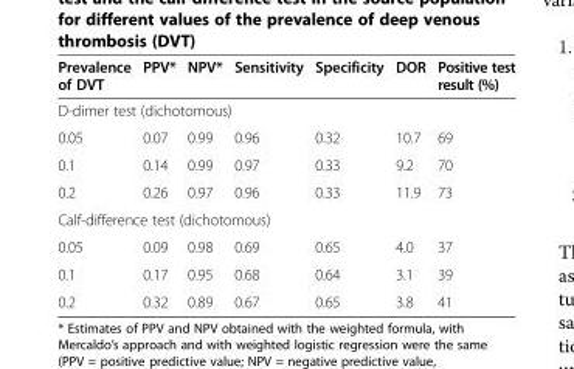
<table><thead><tr><td>Prevalence of DVT</td><td>PPV*</td><td>NPV*</td><td>Sensitivity</td><td>Specificity</td><td>DOR</td><td>Positive test result (%)</td></tr></thead><tbody><tr><td colspan="7">D-dimer test (dichotomous)</td></tr><tr><td>0.05</td><td>0.07</td><td>0.99</td><td>0.96</td><td>0.32</td><td>10.7</td><td>69</td></tr><tr><td>0.1</td><td>0.14</td><td>0.99</td><td>0.97</td><td>0.33</td><td>9.2</td><td>70</td></tr><tr><td>0.2</td><td>0.26</td><td>0.97</td><td>0.96</td><td>0.33</td><td>11.9</td><td>73</td></tr><tr><td colspan="7">Calf-difference test (dichotomous)</td></tr><tr><td>0.05</td><td>0.09</td><td>0.98</td><td>0.69</td><td>0.65</td><td>4.0</td><td>37</td></tr><tr><td>0.1</td><td>0.17</td><td>0.95</td><td>0.68</td><td>0.64</td><td>3.1</td><td>39</td></tr><tr><td>0.2</td><td>0.32</td><td>0.89</td><td>0.67</td><td>0.65</td><td>3.8</td><td>41</td></tr></tbody></table>